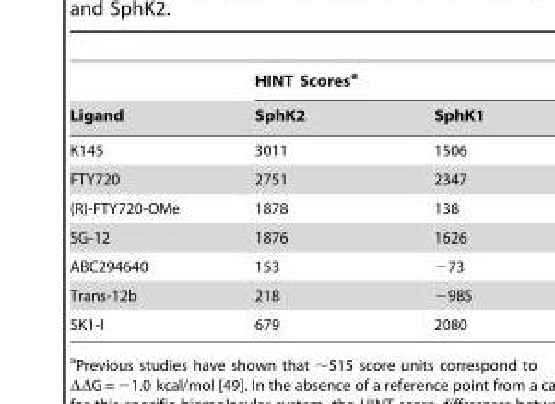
<table><thead><tr><td rowspan="2">Ligand</td><td colspan="2">HINT Scores<sup>a</sup></td></tr><tr><td>SphK2</td><td>SphK1</td></tr></thead><tbody><tr><td>K145</td><td>3011</td><td>1506</td></tr><tr><td>FTY720</td><td>2751</td><td>2347</td></tr><tr><td>(R)-FTY720-OMe</td><td>1878</td><td>138</td></tr><tr><td>SG-12</td><td>1876</td><td>1626</td></tr><tr><td>ABC294640</td><td>153</td><td>−73</td></tr><tr><td>Trans-12b</td><td>218</td><td>−985</td></tr><tr><td>SK1-I</td><td>679</td><td>2080</td></tr></tbody></table>